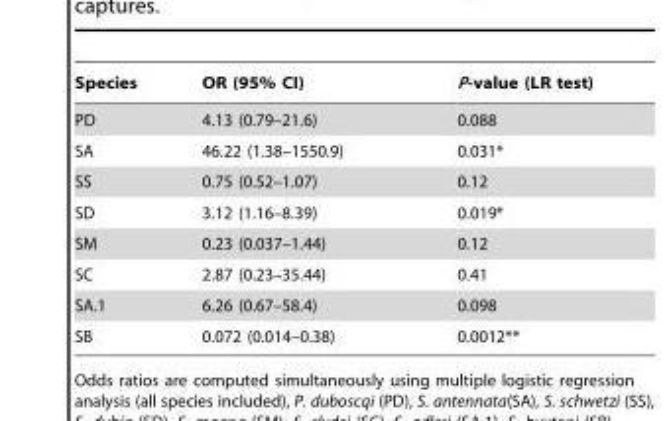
<table><thead><tr><td>Species</td><td>OR (95% CI)</td><td>P-value (LR test)</td></tr></thead><tbody><tr><td>PD</td><td>4.13 (0.79–21.6)</td><td>0.088</td></tr><tr><td>SA</td><td>46.22 (1.38–1550.9)</td><td>0.031*</td></tr><tr><td>SS</td><td>0.75 (0.52–1.07)</td><td>0.12</td></tr><tr><td>SD</td><td>3.12 (1.16–8.39)</td><td>0.019*</td></tr><tr><td>SM</td><td>0.23 (0.037–1.44)</td><td>0.12</td></tr><tr><td>SC</td><td>2.87 (0.23–35.44)</td><td>0.41</td></tr><tr><td>SA.1</td><td>6.26 (0.67–58.4)</td><td>0.098</td></tr><tr><td>SB</td><td>0.072 (0.014–0.38)</td><td>0.0012**</td></tr></tbody></table>